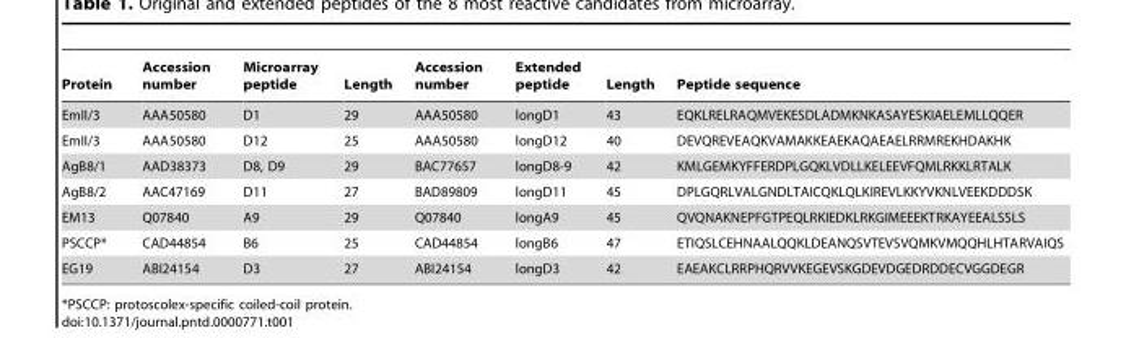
<table><thead><tr><td>Protein</td><td>Accession number</td><td>Microarray peptide</td><td>Length</td><td>Accession number</td><td>Extended peptide</td><td>Length</td><td>Peptide sequence</td></tr></thead><tbody><tr><td>EmII/3</td><td>AAA50580</td><td>D1</td><td>29</td><td>AAA50580</td><td>longD1</td><td>43</td><td>EQKLRELRAQMVEKESDLADMKNKASAYESKIAELEMLLQQER</td></tr><tr><td>EmII/3</td><td>AAA50580</td><td>D12</td><td>25</td><td>AAA50580</td><td>longD12</td><td>40</td><td>DEVQREVEAQKVAMAKKEAEKAQAEAELRRMREKHDAKHK</td></tr><tr><td>AgB8/1</td><td>AAD38373</td><td>D8, D9</td><td>29</td><td>BAC77657</td><td>longD8-9</td><td>42</td><td>KMLGEMKYFFERDPLGQKLVDLLKELEEVFQMLRKKLRTALK</td></tr><tr><td>AgB8/2</td><td>AAC47169</td><td>D11</td><td>27</td><td>BAD89809</td><td>longD11</td><td>45</td><td>DPLGQRLVALGNDLTAICQKLQLKIREVLKKYVKNLVEEKDDDSK</td></tr><tr><td>EM13</td><td>Q07840</td><td>A9</td><td>29</td><td>Q07840</td><td>longA9</td><td>45</td><td>QVQNAKNEPFGTPEQLRKIEDKLRKGIMEEEKTRKAYEEALSSLS</td></tr><tr><td>PSCCP*</td><td>CAD44854</td><td>B6</td><td>25</td><td>CAD44854</td><td>longB6</td><td>47</td><td>ETIQSLCEHNAALQQKLDEANQSVTEVSVQMKVMQQHLHTARVAIQS</td></tr><tr><td>EG19</td><td>ABI24154</td><td>D3</td><td>27</td><td>ABI24154</td><td>longD3</td><td>42</td><td>EAEAKCLRRPHQRVVKEGEVSKGDEVDGEDRDDECVGGDEGR</td></tr></tbody></table>